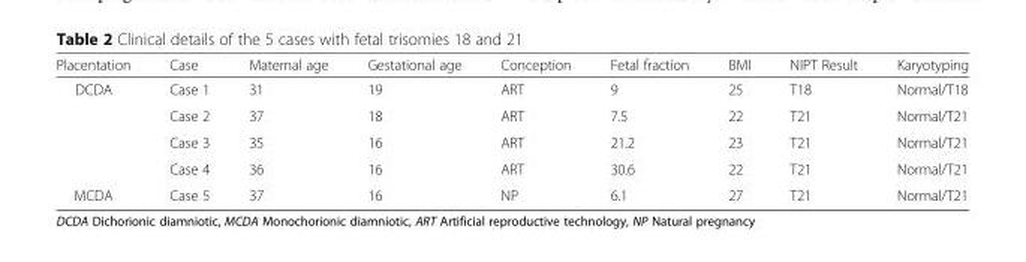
<table><thead><tr><td>Placentation</td><td>Case</td><td>Maternal age</td><td>Gestational age</td><td>Conception</td><td>Fetal fraction</td><td>BMI</td><td>NIPT Result</td><td>Karyotyping</td></tr></thead><tbody><tr><td rowspan="4">DCDA</td><td>Case 1</td><td>31</td><td>19</td><td>ART</td><td>9</td><td>25</td><td>T18</td><td>Normal/T18</td></tr><tr><td>Case 2</td><td>37</td><td>18</td><td>ART</td><td>7.5</td><td>22</td><td>T21</td><td>Normal/T21</td></tr><tr><td>Case 3</td><td>35</td><td>16</td><td>ART</td><td>21.2</td><td>23</td><td>T21</td><td>Normal/T21</td></tr><tr><td>Case 4</td><td>36</td><td>16</td><td>ART</td><td>30.6</td><td>22</td><td>T21</td><td>Normal/T21</td></tr><tr><td>MCDA</td><td>Case 5</td><td>37</td><td>16</td><td>NP</td><td>6.1</td><td>27</td><td>T21</td><td>Normal/T21</td></tr></tbody></table>